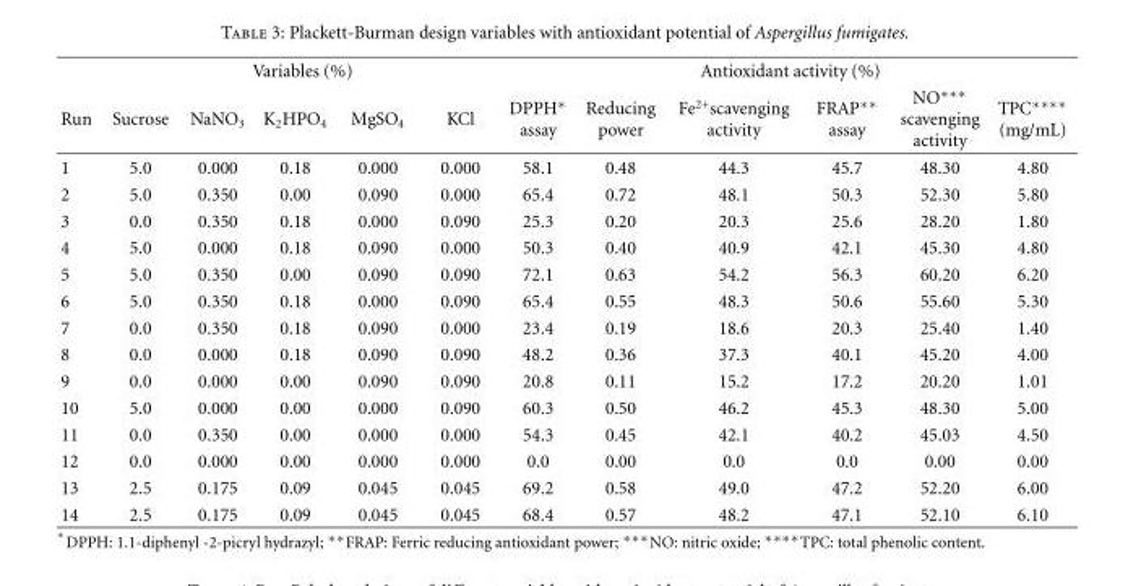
<table><thead><tr><td rowspan="2">Run</td><td colspan="5">Variables (%)</td><td colspan="6">Antioxidant activity (%)</td></tr><tr><td>Sucrose</td><td>NaNO<sub>3</sub></td><td>K<sub>2</sub>HPO<sub>4</sub></td><td>MgSO<sub>4</sub></td><td>KCl</td><td>DPPH∗ assay</td><td>Reducing power</td><td>Fe<sup>2+</sup>scavenging activity</td><td>FRAP∗∗ assay</td><td>NO∗∗∗ scavenging activity</td><td>TPC∗∗∗∗ (mg/mL)</td></tr></thead><tbody><tr><td>1</td><td>5.0</td><td>0.000</td><td>0.18</td><td>0.000</td><td>0.000</td><td>58.1</td><td>0.48</td><td>44.3</td><td>45.7</td><td>48.30</td><td>4.80</td></tr><tr><td>2</td><td>5.0</td><td>0.350</td><td>0.00</td><td>0.090</td><td>0.000</td><td>65.4</td><td>0.72</td><td>48.1</td><td>50.3</td><td>52.30</td><td>5.80</td></tr><tr><td>3</td><td>0.0</td><td>0.350</td><td>0.18</td><td>0.000</td><td>0.090</td><td>25.3</td><td>0.20</td><td>20.3</td><td>25.6</td><td>28.20</td><td>1.80</td></tr><tr><td>4</td><td>5.0</td><td>0.000</td><td>0.18</td><td>0.090</td><td>0.000</td><td>50.3</td><td>0.40</td><td>40.9</td><td>42.1</td><td>45.30</td><td>4.80</td></tr><tr><td>5</td><td>5.0</td><td>0.350</td><td>0.00</td><td>0.090</td><td>0.090</td><td>72.1</td><td>0.63</td><td>54.2</td><td>56.3</td><td>60.20</td><td>6.20</td></tr><tr><td>6</td><td>5.0</td><td>0.350</td><td>0.18</td><td>0.000</td><td>0.090</td><td>65.4</td><td>0.55</td><td>48.3</td><td>50.6</td><td>55.60</td><td>5.30</td></tr><tr><td>7</td><td>0.0</td><td>0.350</td><td>0.18</td><td>0.090</td><td>0.000</td><td>23.4</td><td>0.19</td><td>18.6</td><td>20.3</td><td>25.40</td><td>1.40</td></tr><tr><td>8</td><td>0.0</td><td>0.000</td><td>0.18</td><td>0.090</td><td>0.090</td><td>48.2</td><td>0.36</td><td>37.3</td><td>40.1</td><td>45.20</td><td>4.00</td></tr><tr><td>9</td><td>0.0</td><td>0.000</td><td>0.00</td><td>0.090</td><td>0.090</td><td>20.8</td><td>0.11</td><td>15.2</td><td>17.2</td><td>20.20</td><td>1.01</td></tr><tr><td>10</td><td>5.0</td><td>0.000</td><td>0.00</td><td>0.000</td><td>0.090</td><td>60.3</td><td>0.50</td><td>46.2</td><td>45.3</td><td>48.30</td><td>5.00</td></tr><tr><td>11</td><td>0.0</td><td>0.350</td><td>0.00</td><td>0.000</td><td>0.000</td><td>54.3</td><td>0.45</td><td>42.1</td><td>40.2</td><td>45.03</td><td>4.50</td></tr><tr><td>12</td><td>0.0</td><td>0.000</td><td>0.00</td><td>0.000</td><td>0.000</td><td>0.0</td><td>0.00</td><td>0.0</td><td>0.0</td><td>0.00</td><td>0.00</td></tr><tr><td>13</td><td>2.5</td><td>0.175</td><td>0.09</td><td>0.045</td><td>0.045</td><td>69.2</td><td>0.58</td><td>49.0</td><td>47.2</td><td>52.20</td><td>6.00</td></tr><tr><td>14</td><td>2.5</td><td>0.175</td><td>0.09</td><td>0.045</td><td>0.045</td><td>68.4</td><td>0.57</td><td>48.2</td><td>47.1</td><td>52.10</td><td>6.10</td></tr></tbody></table>